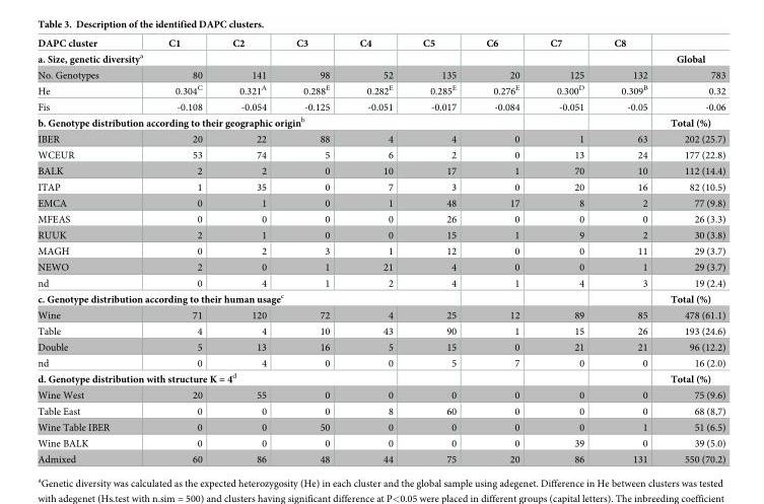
<table><thead><tr><td>DAPC cluster</td><td>C1</td><td>C2</td><td>C3</td><td>C4</td><td>C5</td><td>C6</td><td>C7</td><td>C8</td><td></td></tr></thead><tbody><tr><td colspan="2">a. Size, genetic diversity<sup>a</sup></td><td></td><td></td><td></td><td></td><td></td><td></td><td></td><td>Global</td></tr><tr><td>No. Genotypes</td><td>80</td><td>141</td><td>98</td><td>52</td><td>135</td><td>20</td><td>125</td><td>132</td><td>783</td></tr><tr><td>He</td><td>0.304<sup>C</sup></td><td>0.321<sup>A</sup></td><td>0.288<sup>E</sup></td><td>0.282<sup>E</sup></td><td>0.285<sup>E</sup></td><td>0.276<sup>E</sup></td><td>0.300<sup>D</sup></td><td>0.309<sup>B</sup></td><td>0.32</td></tr><tr><td>Fis</td><td>-0.108</td><td>-0.054</td><td>-0.125</td><td>-0.051</td><td>-0.017</td><td>-0.084</td><td>-0.051</td><td>-0.05</td><td>-0.06</td></tr><tr><td colspan="7">b. Genotype distribution according to their geographic origin<sup>b</sup></td><td></td><td></td><td>Total (%)</td></tr><tr><td>IBER</td><td>20</td><td>22</td><td>88</td><td>4</td><td>4</td><td>0</td><td>1</td><td>63</td><td>202 (25.7)</td></tr><tr><td>WCEUR</td><td>53</td><td>74</td><td>5</td><td>6</td><td>2</td><td>0</td><td>13</td><td>24</td><td>177 (22.8)</td></tr><tr><td>BALK</td><td>2</td><td>2</td><td>0</td><td>10</td><td>17</td><td>1</td><td>70</td><td>10</td><td>112 (14.4)</td></tr><tr><td>ITAP</td><td>1</td><td>35</td><td>0</td><td>7</td><td>3</td><td>0</td><td>20</td><td>16</td><td>82 (10.5)</td></tr><tr><td>EMCA</td><td>0</td><td>1</td><td>0</td><td>1</td><td>48</td><td>17</td><td>8</td><td>2</td><td>77 (9.8)</td></tr><tr><td>MFEAS</td><td>0</td><td>0</td><td>0</td><td>0</td><td>26</td><td>0</td><td>0</td><td>0</td><td>26 (3.3)</td></tr><tr><td>RUUK</td><td>2</td><td>1</td><td>0</td><td>0</td><td>15</td><td>1</td><td>9</td><td>2</td><td>30 (3.8)</td></tr><tr><td>MAGH</td><td>0</td><td>2</td><td>3</td><td>1</td><td>12</td><td>0</td><td>0</td><td>11</td><td>29 (3.7)</td></tr><tr><td>NEWO</td><td>2</td><td>0</td><td>1</td><td>21</td><td>4</td><td>0</td><td>0</td><td>1</td><td>29 (3.7)</td></tr><tr><td>nd</td><td>0</td><td>4</td><td>1</td><td>2</td><td>4</td><td>1</td><td>4</td><td>3</td><td>19 (2.4)</td></tr><tr><td colspan="6">c. Genotype distribution according to their human usage<sup>c</sup></td><td></td><td></td><td></td><td>Total (%)</td></tr><tr><td>Wine</td><td>71</td><td>120</td><td>72</td><td>4</td><td>25</td><td>12</td><td>89</td><td>85</td><td>478 (61.1)</td></tr><tr><td>Table</td><td>4</td><td>4</td><td>10</td><td>43</td><td>90</td><td>1</td><td>15</td><td>26</td><td>193 (24.6)</td></tr><tr><td>Double</td><td>5</td><td>13</td><td>16</td><td>5</td><td>15</td><td>0</td><td>21</td><td>21</td><td>96 (12.2)</td></tr><tr><td>nd</td><td>0</td><td>4</td><td>0</td><td>0</td><td>5</td><td>7</td><td>0</td><td>0</td><td>16 (2.0)</td></tr><tr><td colspan="5">d. Genotype distribution with structure K = 4<sup>d</sup></td><td></td><td></td><td></td><td></td><td>Total (%)</td></tr><tr><td>Wine West</td><td>20</td><td>55</td><td>0</td><td>0</td><td>0</td><td>0</td><td>0</td><td>0</td><td>75 (9.6)</td></tr><tr><td>Table East</td><td>0</td><td>0</td><td>0</td><td>8</td><td>60</td><td>0</td><td>0</td><td>0</td><td>68 (8,7)</td></tr><tr><td>Wine Table IBER</td><td>0</td><td>0</td><td>50</td><td>0</td><td>0</td><td>0</td><td>0</td><td>1</td><td>51 (6.5)</td></tr><tr><td>Wine BALK</td><td>0</td><td>0</td><td>0</td><td>0</td><td>0</td><td>0</td><td>39</td><td>0</td><td>39 (5.0)</td></tr><tr><td>Admixed</td><td>60</td><td>86</td><td>48</td><td>44</td><td>75</td><td>20</td><td>86</td><td>131</td><td>550 (70.2)</td></tr></tbody></table>